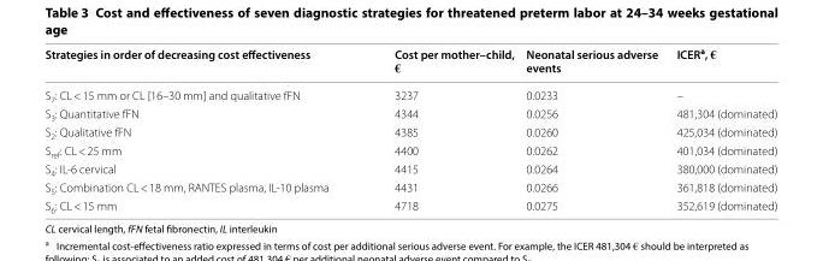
<table><thead><tr><td>Strategies in order of decreasing cost effectiveness</td><td>Cost per mother–child, €</td><td>Neonatal serious adverse events</td><td>ICER<sup>a</sup>, €</td></tr></thead><tbody><tr><td>S<sub>7</sub>: CL &lt; 15 mm or CL [16–30 mm] and qualitative fFN</td><td>3237</td><td>0.0233</td><td>–</td></tr><tr><td>S<sub>3</sub>: Quantitative fFN</td><td>4344</td><td>0.0256</td><td>481,304 (dominated)</td></tr><tr><td>S<sub>2</sub>: Qualitative fFN</td><td>4385</td><td>0.0260</td><td>425,034 (dominated)</td></tr><tr><td>S<sub>ref</sub>: CL &lt; 25 mm</td><td>4400</td><td>0.0262</td><td>401,034 (dominated)</td></tr><tr><td>S<sub>4</sub>: IL-6 cervical</td><td>4415</td><td>0.0264</td><td>380,000 (dominated)</td></tr><tr><td>S<sub>5</sub>: Combination CL &lt; 18 mm, RANTES plasma, IL-10 plasma</td><td>4431</td><td>0.0266</td><td>361,818 (dominated)</td></tr><tr><td>S<sub>6</sub>: CL &lt; 15 mm</td><td>4718</td><td>0.0275</td><td>352,619 (dominated)</td></tr></tbody></table>